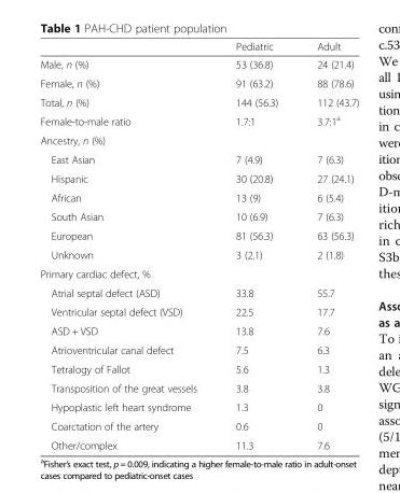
<table><thead><tr><td></td><td>Pediatric</td><td>Adult</td></tr></thead><tbody><tr><td>Male, n (%)</td><td>53 (36.8)</td><td>24 (21.4)</td></tr><tr><td>Female, n (%)</td><td>91 (63.2)</td><td>88 (78.6)</td></tr><tr><td>Total, n (%)</td><td>144 (56.3)</td><td>112 (43.7)</td></tr><tr><td>Female-to-male ratio</td><td>1.7:1</td><td>3.7:1<sup>a</sup></td></tr><tr><td colspan="3">Ancestry, n (%)</td></tr><tr><td>East Asian</td><td>7 (4.9)</td><td>7 (6.3)</td></tr><tr><td>Hispanic</td><td>30 (20.8)</td><td>27 (24.1)</td></tr><tr><td>African</td><td>13 (9)</td><td>6 (5.4)</td></tr><tr><td>South Asian</td><td>10 (6.9)</td><td>7 (6.3)</td></tr><tr><td>European</td><td>81 (56.3)</td><td>63 (56.3)</td></tr><tr><td>Unknown</td><td>3 (2.1)</td><td>2 (1.8)</td></tr><tr><td colspan="3">Primary cardiac defect, %</td></tr><tr><td>Atrial septal defect (ASD)</td><td>33.8</td><td>55.7</td></tr><tr><td>Ventricular septal defect (VSD)</td><td>22.5</td><td>17.7</td></tr><tr><td>ASD + VSD</td><td>13.8</td><td>7.6</td></tr><tr><td>Atrioventricular canal defect</td><td>7.5</td><td>6.3</td></tr><tr><td>Tetralogy of Fallot</td><td>5.6</td><td>1.3</td></tr><tr><td>Transposition of the great vessels</td><td>3.8</td><td>3.8</td></tr><tr><td>Hypoplastic left heart syndrome</td><td>1.3</td><td>0</td></tr><tr><td>Coarctation of the artery</td><td>0.6</td><td>0</td></tr><tr><td>Other/complex</td><td>11.3</td><td>7.6</td></tr></tbody></table>